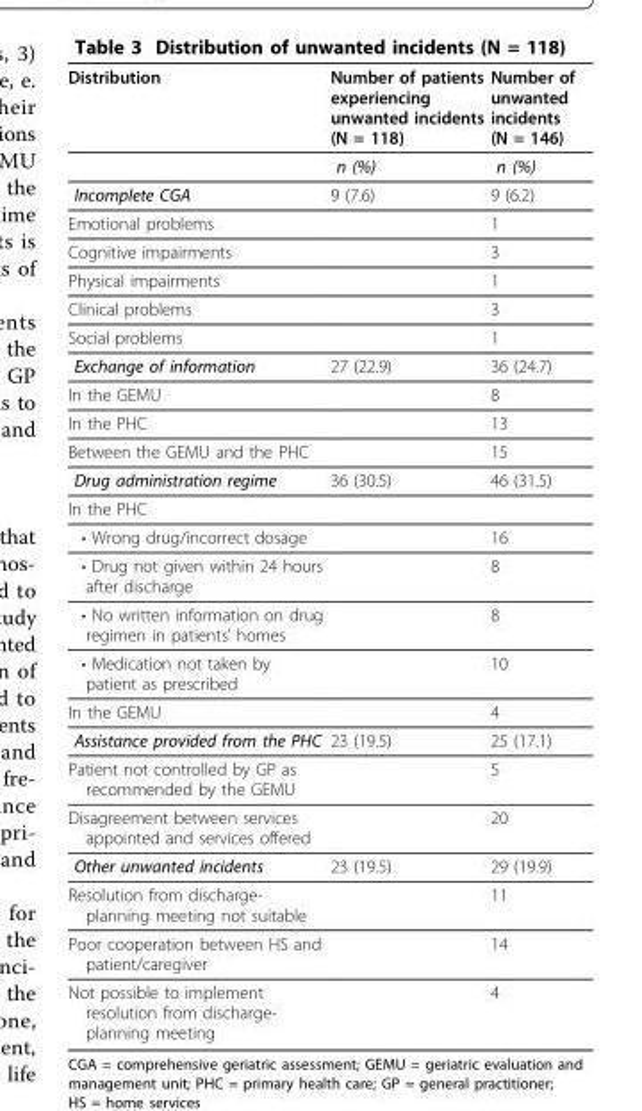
<table><thead><tr><td>Distribution</td><td>Number of patients experiencing unwanted incidents (N = 118)</td><td>Number of unwanted incidents (N = 146)</td></tr></thead><tbody><tr><td></td><td>n (%)</td><td>n (%)</td></tr><tr><td>Incomplete CGA</td><td>9 (7.6)</td><td>9 (6.2)</td></tr><tr><td>Emotional problems</td><td></td><td>1</td></tr><tr><td>Cognitive impairments</td><td></td><td>3</td></tr><tr><td>Physical impairments</td><td></td><td>1</td></tr><tr><td>Clinical problems</td><td></td><td>3</td></tr><tr><td>Social problems</td><td></td><td>1</td></tr><tr><td>Exchange of information</td><td>27 (22.9)</td><td>36 (24.7)</td></tr><tr><td>In the GEMU</td><td></td><td>8</td></tr><tr><td>In the PHC</td><td></td><td>13</td></tr><tr><td>Between the GEMU and the PHC</td><td></td><td>15</td></tr><tr><td>Drug administration regime</td><td>36 (30.5)</td><td>46 (31.5)</td></tr><tr><td colspan="3">In the PHC</td></tr><tr><td>• Wrong drug/incorrect dosage</td><td></td><td>16</td></tr><tr><td>• Drug not given within 24 hours after discharge</td><td></td><td>8</td></tr><tr><td>• No written information on drug regimen in patients&#x27; homes</td><td></td><td>8</td></tr><tr><td>• Medication not taken by patient as prescribed</td><td></td><td>10</td></tr><tr><td>In the GEMU</td><td></td><td>4</td></tr><tr><td>Assistance provided from the PHC</td><td>23 (19.5)</td><td>25 (17.1)</td></tr><tr><td>Patient not controlled by GP as recommended by the GEMU</td><td></td><td>5</td></tr><tr><td>Disagreement between services appointed and services offered</td><td></td><td>20</td></tr><tr><td>Other unwanted incidents</td><td>23 (19.5)</td><td>29 (19.9)</td></tr><tr><td>Resolution from discharge- planning meeting not suitable</td><td></td><td>11</td></tr><tr><td>Poor cooperation between HS and patient/caregiver</td><td></td><td>14</td></tr><tr><td>Not possible to implement resolution from discharge- planning meeting</td><td></td><td>4</td></tr></tbody></table>